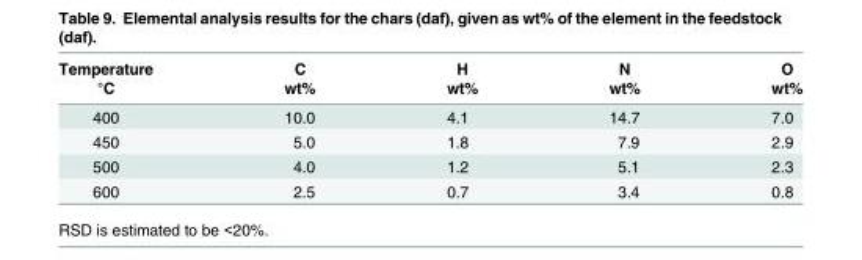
<table><thead><tr><td rowspan="2">Temperature °C</td><td rowspan="2">C wt%</td><td rowspan="2">H wt%</td><td rowspan="2">N wt%</td><td rowspan="2">O wt%</td></tr><tr></tr></thead><tbody><tr><td>400</td><td>10.0</td><td>4.1</td><td>14.7</td><td>7.0</td></tr><tr><td>450</td><td>5.0</td><td>1.8</td><td>7.9</td><td>2.9</td></tr><tr><td>500</td><td>4.0</td><td>1.2</td><td>5.1</td><td>2.3</td></tr><tr><td>600</td><td>2.5</td><td>0.7</td><td>3.4</td><td>0.8</td></tr></tbody></table>